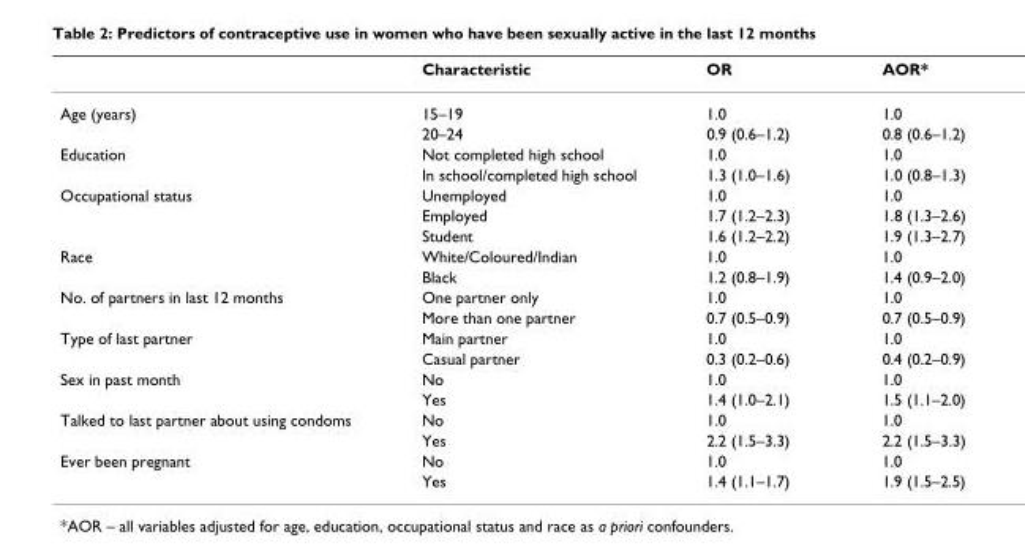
<table><thead><tr><td></td><td>Characteristic</td><td>OR</td><td>AOR*</td></tr></thead><tbody><tr><td rowspan="2">Age (years)</td><td>15–19</td><td>1.0</td><td>1.0</td></tr><tr><td>20–24</td><td>0.9 (0.6–1.2)</td><td>0.8 (0.6–1.2)</td></tr><tr><td rowspan="2">Education</td><td>Not completed high school</td><td>1.0</td><td>1.0</td></tr><tr><td>In school/completed high school</td><td>1.3 (1.0–1.6)</td><td>1.0 (0.8–1.3)</td></tr><tr><td rowspan="3">Occupational status</td><td>Unemployed</td><td>1.0</td><td>1.0</td></tr><tr><td>Employed</td><td>1.7 (1.2–2.3)</td><td>1.8 (1.3–2.6)</td></tr><tr><td>Student</td><td>1.6 (1.2–2.2)</td><td>1.9 (1.3–2.7)</td></tr><tr><td rowspan="2">Race</td><td>White/Coloured/Indian</td><td>1.0</td><td>1.0</td></tr><tr><td>Black</td><td>1.2 (0.8–1.9)</td><td>1.4 (0.9–2.0)</td></tr><tr><td rowspan="2">No. of partners in last 12 months</td><td>One partner only</td><td>1.0</td><td>1.0</td></tr><tr><td>More than one partner</td><td>0.7 (0.5–0.9)</td><td>0.7 (0.5–0.9)</td></tr><tr><td rowspan="2">Type of last partner</td><td>Main partner</td><td>1.0</td><td>1.0</td></tr><tr><td>Casual partner</td><td>0.3 (0.2–0.6)</td><td>0.4 (0.2–0.9)</td></tr><tr><td rowspan="2">Sex in past month</td><td>No</td><td>1.0</td><td>1.0</td></tr><tr><td>Yes</td><td>1.4 (1.0–2.1)</td><td>1.5 (1.1–2.0)</td></tr><tr><td rowspan="2">Talked to last partner about using condoms</td><td>No</td><td>1.0</td><td>1.0</td></tr><tr><td>Yes</td><td>2.2 (1.5–3.3)</td><td>2.2 (1.5–3.3)</td></tr><tr><td rowspan="2">Ever been pregnant</td><td>No</td><td>1.0</td><td>1.0</td></tr><tr><td>Yes</td><td>1.4 (1.1–1.7)</td><td>1.9 (1.5–2.5)</td></tr></tbody></table>